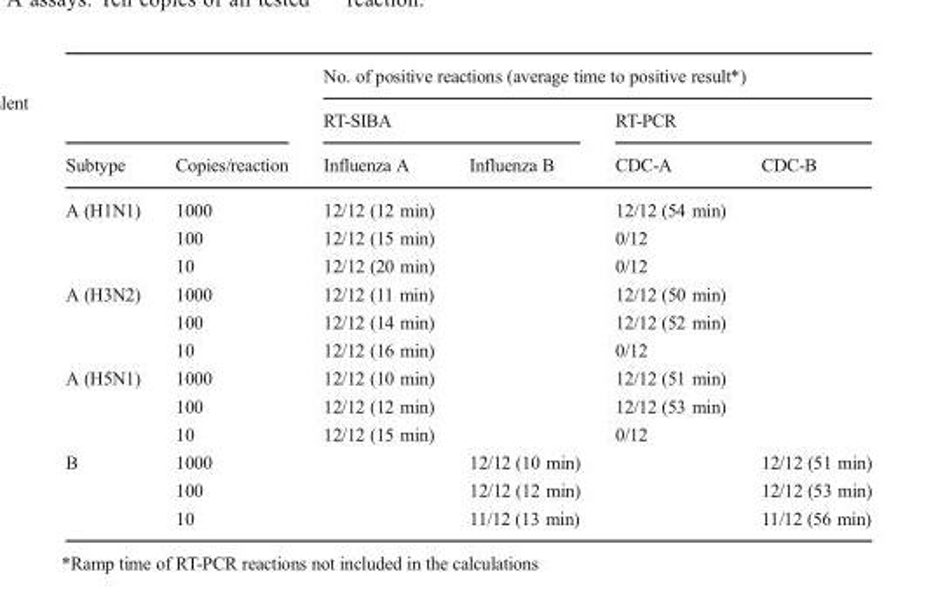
<table><thead><tr><td rowspan="3">Subtype</td><td rowspan="3">Copies/reaction</td><td colspan="4">No. of positive reactions (average time to positive result*)</td></tr><tr><td colspan="2">RT-SIBA</td><td colspan="2">RT-PCR</td></tr><tr><td>Influenza A</td><td>Influenza B</td><td>CDC-A</td><td>CDC-B</td></tr></thead><tbody><tr><td rowspan="3">A (H1N1)</td><td>1000</td><td>12/12 (12 min)</td><td></td><td>12/12 (54 min)</td><td></td></tr><tr><td>100</td><td>12/12 (15 min)</td><td></td><td>0/12</td><td></td></tr><tr><td>10</td><td>12/12 (20 min)</td><td></td><td>0/12</td><td></td></tr><tr><td rowspan="3">A (H3N2)</td><td>1000</td><td>12/12 (11 min)</td><td></td><td>12/12 (50 min)</td><td></td></tr><tr><td>100</td><td>12/12 (14 min)</td><td></td><td>12/12 (52 min)</td><td></td></tr><tr><td>10</td><td>12/12 (16 min)</td><td></td><td>0/12</td><td></td></tr><tr><td rowspan="3">A (H5N1)</td><td>1000</td><td>12/12 (10 min)</td><td></td><td>12/12 (51 min)</td><td></td></tr><tr><td>100</td><td>12/12 (12 min)</td><td></td><td>12/12 (53 min)</td><td></td></tr><tr><td>10</td><td>12/12 (15 min)</td><td></td><td>0/12</td><td></td></tr><tr><td rowspan="3">B</td><td>1000</td><td></td><td>12/12 (10 min)</td><td></td><td>12/12 (51 min)</td></tr><tr><td>100</td><td></td><td>12/12 (12 min)</td><td></td><td>12/12 (53 min)</td></tr><tr><td>10</td><td></td><td>11/12 (13 min)</td><td></td><td>11/12 (56 min)</td></tr></tbody></table>